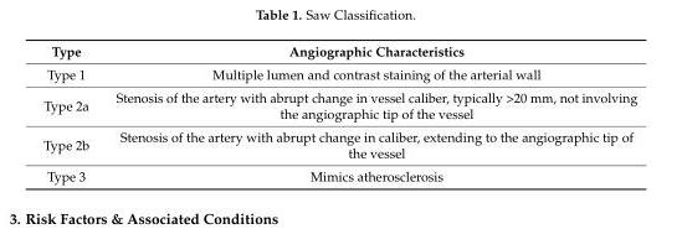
<table><thead><tr><td>Type</td><td>Angiographic Characteristics</td></tr></thead><tbody><tr><td>Type 1</td><td>Multiple lumen and contrast staining of the arterial wall</td></tr><tr><td>Type 2a</td><td>Stenosis of the artery with abrupt change in vessel caliber, typically &gt;20 mm, not involving the angiographic tip of the vessel</td></tr><tr><td>Type 2b</td><td>Stenosis of the artery with abrupt change in caliber, extending to the angiographic tip of the vessel</td></tr><tr><td>Type 3</td><td>Mimics atherosclerosis</td></tr></tbody></table>